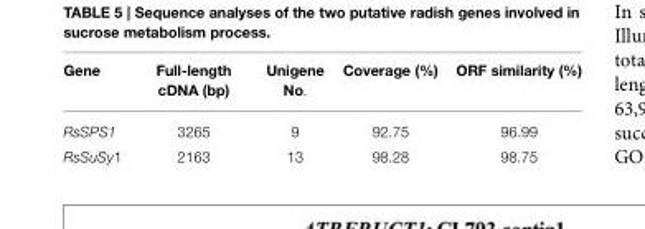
<table><thead><tr><td>Gene</td><td>Full-length cDNA (bp)</td><td>Unigene No.</td><td>Coverage (%)</td><td>ORF similarity (%)</td></tr></thead><tbody><tr><td>RsSPS1</td><td>3265</td><td>9</td><td>92.75</td><td>96.99</td></tr><tr><td>RsSuSy1</td><td>2163</td><td>13</td><td>98.28</td><td>98.75</td></tr></tbody></table>